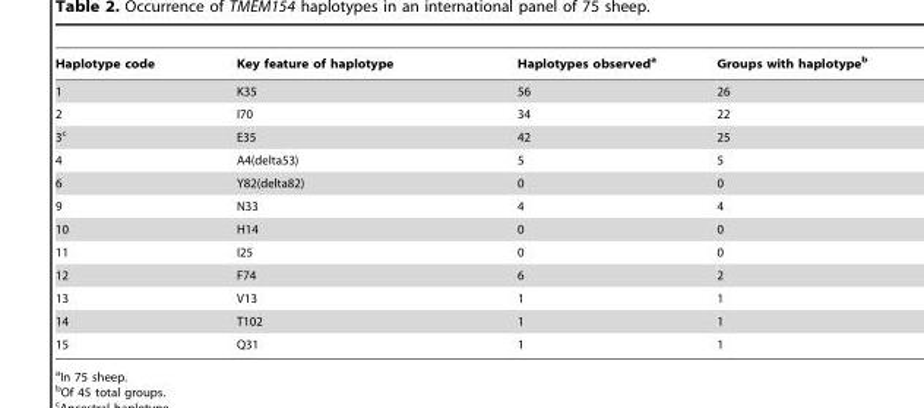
<table><thead><tr><td>Haplotype code</td><td>Key feature of haplotype</td><td>Haplotypes observed<sup>a</sup></td><td>Groups with haplotype<sup>b</sup></td></tr></thead><tbody><tr><td>1</td><td>K35</td><td>56</td><td>26</td></tr><tr><td>2</td><td>I70</td><td>34</td><td>22</td></tr><tr><td>3<sup>c</sup></td><td>E35</td><td>42</td><td>25</td></tr><tr><td>4</td><td>A4(delta53)</td><td>5</td><td>5</td></tr><tr><td>6</td><td>Y82(delta82)</td><td>0</td><td>0</td></tr><tr><td>9</td><td>N33</td><td>4</td><td>4</td></tr><tr><td>10</td><td>H14</td><td>0</td><td>0</td></tr><tr><td>11</td><td>I25</td><td>0</td><td>0</td></tr><tr><td>12</td><td>F74</td><td>6</td><td>2</td></tr><tr><td>13</td><td>V13</td><td>1</td><td>1</td></tr><tr><td>14</td><td>T102</td><td>1</td><td>1</td></tr><tr><td>15</td><td>Q31</td><td>1</td><td>1</td></tr></tbody></table>